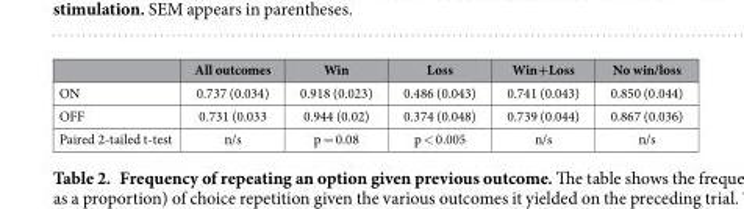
<table><thead><tr><td></td><td>All outcomes</td><td>Win</td><td>Loss</td><td>Win+Loss</td><td>No win/loss</td></tr></thead><tbody><tr><td>ON</td><td>0.737 (0.034)</td><td>0.918 (0.023)</td><td>0.486 (0.043)</td><td>0.741 (0.043)</td><td>0.850 (0.044)</td></tr><tr><td>OFF</td><td>0.731 (0.033</td><td>0.944 (0.02)</td><td>0.374 (0.048)</td><td>0.739 (0.044)</td><td>0.867 (0.036)</td></tr><tr><td>Paired 2-tailed t-test</td><td>n/s</td><td>p = 0.08</td><td>p &lt; 0.005</td><td>n/s</td><td>n/s</td></tr></tbody></table>